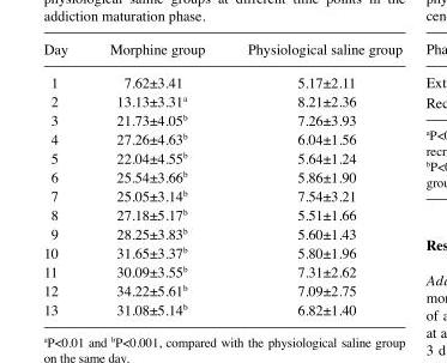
<table><thead><tr><td>Day</td><td>Morphine group</td><td>Physiological saline group</td></tr></thead><tbody><tr><td>1</td><td>7.62±3.41</td><td>5.17±2.11</td></tr><tr><td>2</td><td>13.13±3.31<sup>a</sup></td><td>8.21±2.36</td></tr><tr><td>3</td><td>21.73±4.05<sup>b</sup></td><td>7.26±3.93</td></tr><tr><td>4</td><td>27.26±4.63<sup>b</sup></td><td>6.04±1.56</td></tr><tr><td>5</td><td>22.04±4.55<sup>b</sup></td><td>5.64±1.24</td></tr><tr><td>6</td><td>25.54±3.66<sup>b</sup></td><td>5.86±1.90</td></tr><tr><td>7</td><td>25.05±3.14<sup>b</sup></td><td>7.54±3.21</td></tr><tr><td>8</td><td>27.18±5.17<sup>b</sup></td><td>5.51±1.66</td></tr><tr><td>9</td><td>28.25±3.83<sup>b</sup></td><td>5.60±1.43</td></tr><tr><td>10</td><td>31.65±3.37<sup>b</sup></td><td>5.80±1.96</td></tr><tr><td>11</td><td>30.09±3.55<sup>b</sup></td><td>7.31±2.62</td></tr><tr><td>12</td><td>34.22±5.61<sup>b</sup></td><td>7.09±2.75</td></tr><tr><td>13</td><td>31.08±5.14<sup>b</sup></td><td>6.82±1.40</td></tr></tbody></table>